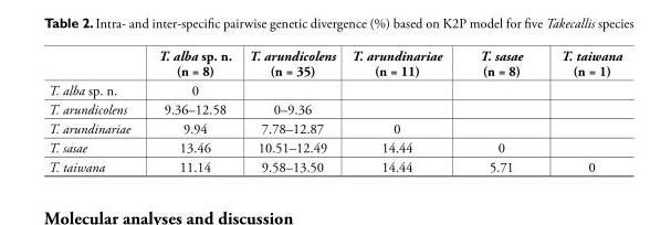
<table><thead><tr><td></td><td>T. alba sp. n. (n = 8)</td><td>T. arundicolens (n = 35)</td><td>T. arundinariae (n = 11)</td><td>T. sasae (n = 8)</td><td>T. taiwana (n = 1)</td></tr></thead><tbody><tr><td>T. alba sp. n.</td><td>0</td><td></td><td></td><td></td><td></td></tr><tr><td>T. arundicolens</td><td>9.36–12.58</td><td>0–9.36</td><td></td><td></td><td></td></tr><tr><td>T. arundinariae</td><td>9.94</td><td>7.78–12.87</td><td>0</td><td></td><td></td></tr><tr><td>T. sasae</td><td>13.46</td><td>10.51–12.49</td><td>14.44</td><td>0</td><td></td></tr><tr><td>T. taiwana</td><td>11.14</td><td>9.58–13.50</td><td>14.44</td><td>5.71</td><td>0</td></tr></tbody></table>